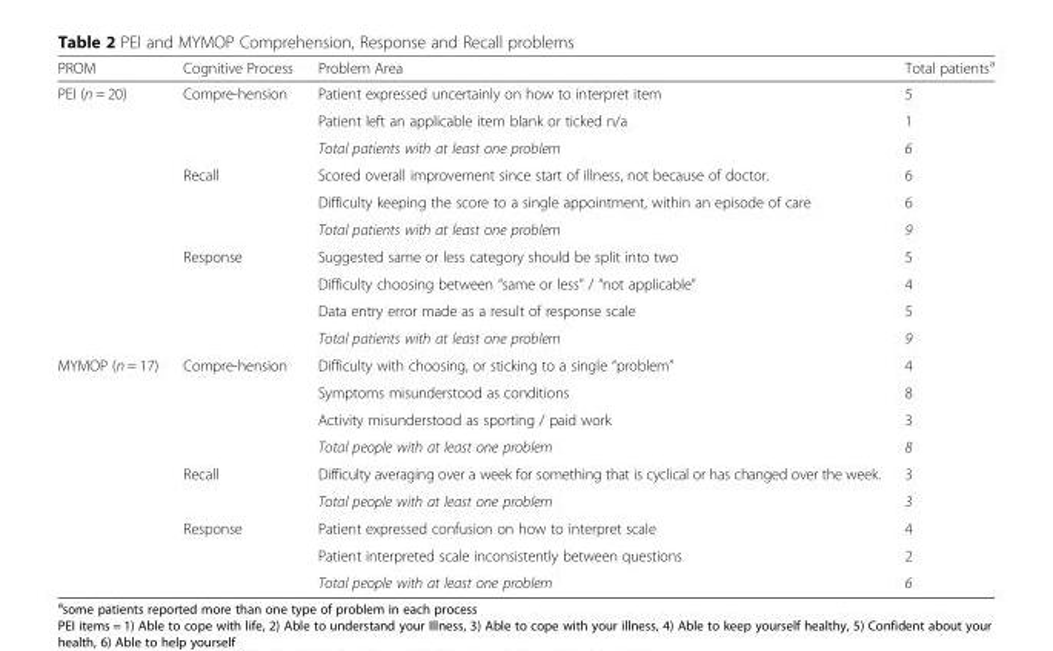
<table><thead><tr><td>PROM</td><td>Cognitive Process</td><td>Problem Area</td><td>Total patients<sup>a</sup></td></tr></thead><tbody><tr><td rowspan="10">PEI (n = 20)</td><td rowspan="3">Compre-hension</td><td>Patient expressed uncertainly on how to interpret item</td><td>5</td></tr><tr><td>Patient left an applicable item blank or ticked n/a</td><td>1</td></tr><tr><td>Total patients with at least one problem</td><td>6</td></tr><tr><td rowspan="3">Recall</td><td>Scored overall improvement since start of illness, not because of doctor.</td><td>6</td></tr><tr><td>Difficulty keeping the score to a single appointment, within an episode of care</td><td>6</td></tr><tr><td>Total patients with at least one problem</td><td>9</td></tr><tr><td rowspan="4">Response</td><td>Suggested same or less category should be split into two</td><td>5</td></tr><tr><td>Difficulty choosing between “same or less” / “not applicable”</td><td>4</td></tr><tr><td>Data entry error made as a result of response scale</td><td>5</td></tr><tr><td>Total patients with at least one problem</td><td>9</td></tr><tr><td rowspan="9">MYMOP (n = 17)</td><td rowspan="4">Compre-hension</td><td>Difficulty with choosing, or sticking to a single “problem”</td><td>4</td></tr><tr><td>Symptoms misunderstood as conditions</td><td>8</td></tr><tr><td>Activity misunderstood as sporting / paid work</td><td>3</td></tr><tr><td>Total people with at least one problem</td><td>8</td></tr><tr><td rowspan="2">Recall</td><td>Difficulty averaging over a week for something that is cyclical or has changed over the week.</td><td>3</td></tr><tr><td>Total people with at least one problem</td><td>3</td></tr><tr><td rowspan="3">Response</td><td>Patient expressed confusion on how to interpret scale</td><td>4</td></tr><tr><td>Patient interpreted scale inconsistently between questions</td><td>2</td></tr><tr><td>Total people with at least one problem</td><td>6</td></tr></tbody></table>